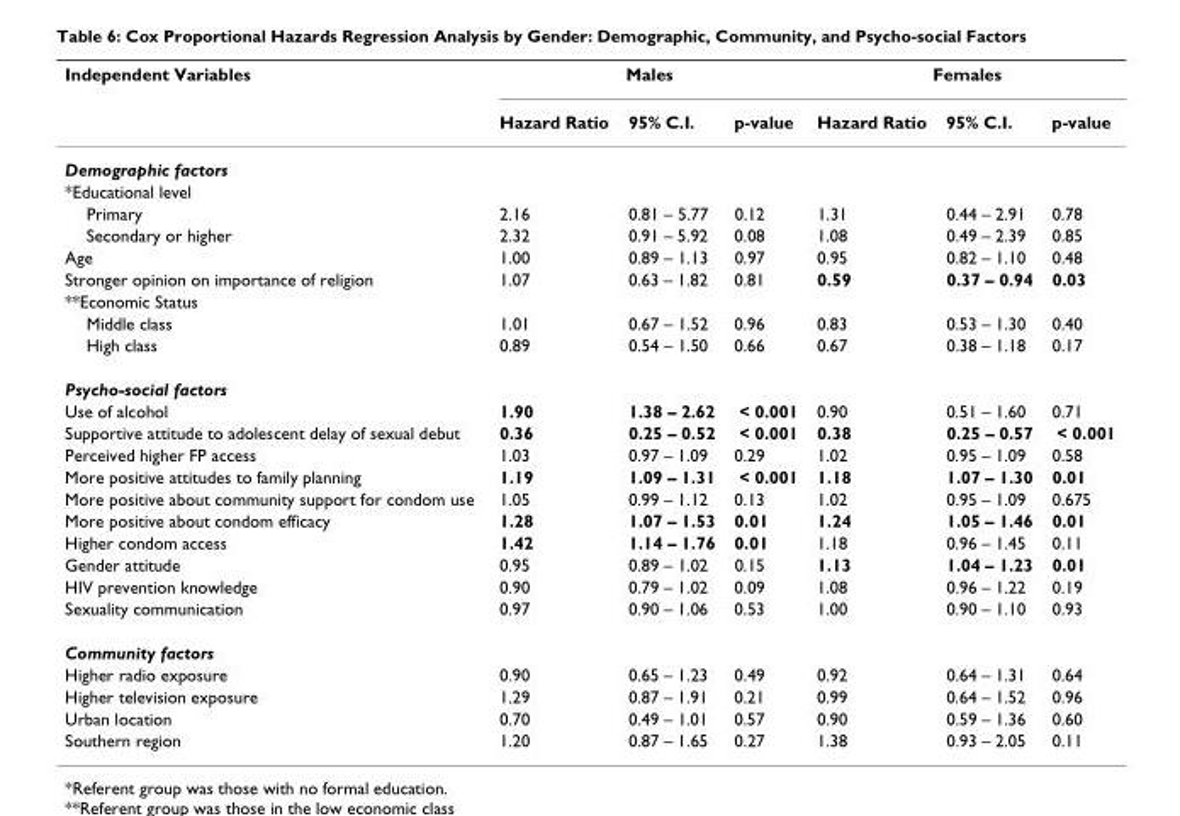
<table><thead><tr><td rowspan="2">Independent Variables</td><td colspan="3">Males</td><td colspan="3">Females</td></tr><tr><td>Hazard Ratio</td><td>95% C.I.</td><td>p-value</td><td>Hazard Ratio</td><td>95% C.I.</td><td>p-value</td></tr></thead><tbody><tr><td colspan="7">Demographic factors</td></tr><tr><td colspan="7">*Educational level</td></tr><tr><td>Primary</td><td>2.16</td><td>0.81 – 5.77</td><td>0.12</td><td>1.31</td><td>0.44 – 2.91</td><td>0.78</td></tr><tr><td>Secondary or higher</td><td>2.32</td><td>0.91 – 5.92</td><td>0.08</td><td>1.08</td><td>0.49 – 2.39</td><td>0.85</td></tr><tr><td>Age</td><td>1.00</td><td>0.89 – 1.13</td><td>0.97</td><td>0.95</td><td>0.82 – 1.10</td><td>0.48</td></tr><tr><td>Stronger opinion on importance of religion</td><td>1.07</td><td>0.63 – 1.82</td><td>0.81</td><td>0.59</td><td>0.37 – 0.94</td><td>0.03</td></tr><tr><td colspan="7">**Economic Status</td></tr><tr><td>Middle class</td><td>1.01</td><td>0.67 – 1.52</td><td>0.96</td><td>0.83</td><td>0.53 – 1.30</td><td>0.40</td></tr><tr><td>High class</td><td>0.89</td><td>0.54 – 1.50</td><td>0.66</td><td>0.67</td><td>0.38 – 1.18</td><td>0.17</td></tr><tr><td colspan="7">Psycho-social factors</td></tr><tr><td>Use of alcohol</td><td>1.90</td><td>1.38 – 2.62</td><td>&lt; 0.001</td><td>0.90</td><td>0.51 – 1.60</td><td>0.71</td></tr><tr><td>Supportive attitude to adolescent delay of sexual debut</td><td>0.36</td><td>0.25 – 0.52</td><td>&lt; 0.001</td><td>0.38</td><td>0.25 – 0.57</td><td>&lt; 0.001</td></tr><tr><td>Perceived higher FP access</td><td>1.03</td><td>0.97 – 1.09</td><td>0.29</td><td>1.02</td><td>0.95 – 1.09</td><td>0.58</td></tr><tr><td>More positive attitudes to family planning</td><td>1.19</td><td>1.09 – 1.31</td><td>&lt; 0.001</td><td>1.18</td><td>1.07 – 1.30</td><td>0.01</td></tr><tr><td>More positive about community support for condom use</td><td>1.05</td><td>0.99 – 1.12</td><td>0.13</td><td>1.02</td><td>0.95 – 1.09</td><td>0.675</td></tr><tr><td>More positive about condom efficacy</td><td>1.28</td><td>1.07 – 1.53</td><td>0.01</td><td>1.24</td><td>1.05 – 1.46</td><td>0.01</td></tr><tr><td>Higher condom access</td><td>1.42</td><td>1.14 – 1.76</td><td>0.01</td><td>1.18</td><td>0.96 – 1.45</td><td>0.11</td></tr><tr><td>Gender attitude</td><td>0.95</td><td>0.89 – 1.02</td><td>0.15</td><td>1.13</td><td>1.04 – 1.23</td><td>0.01</td></tr><tr><td>HIV prevention knowledge</td><td>0.90</td><td>0.79 – 1.02</td><td>0.09</td><td>1.08</td><td>0.96 – 1.22</td><td>0.19</td></tr><tr><td>Sexuality communication</td><td>0.97</td><td>0.90 – 1.06</td><td>0.53</td><td>1.00</td><td>0.90 – 1.10</td><td>0.93</td></tr><tr><td colspan="7">Community factors</td></tr><tr><td>Higher radio exposure</td><td>0.90</td><td>0.65 – 1.23</td><td>0.49</td><td>0.92</td><td>0.64 – 1.31</td><td>0.64</td></tr><tr><td>Higher television exposure</td><td>1.29</td><td>0.87 – 1.91</td><td>0.21</td><td>0.99</td><td>0.64 – 1.52</td><td>0.96</td></tr><tr><td>Urban location</td><td>0.70</td><td>0.49 – 1.01</td><td>0.57</td><td>0.90</td><td>0.59 – 1.36</td><td>0.60</td></tr><tr><td>Southern region</td><td>1.20</td><td>0.87 – 1.65</td><td>0.27</td><td>1.38</td><td>0.93 – 2.05</td><td>0.11</td></tr></tbody></table>